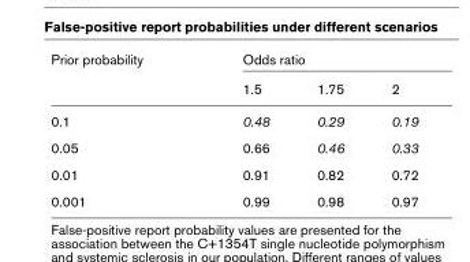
<table><thead><tr><td rowspan="2">Prior probability</td><td colspan="3">Odds ratio</td></tr><tr><td>1.5</td><td>1.75</td><td>2</td></tr></thead><tbody><tr><td>0.1</td><td>0.48</td><td>0.29</td><td>0.19</td></tr><tr><td>0.05</td><td>0.66</td><td>0.46</td><td>0.33</td></tr><tr><td>0.01</td><td>0.91</td><td>0.82</td><td>0.72</td></tr><tr><td>0.001</td><td>0.99</td><td>0.98</td><td>0.97</td></tr></tbody></table>